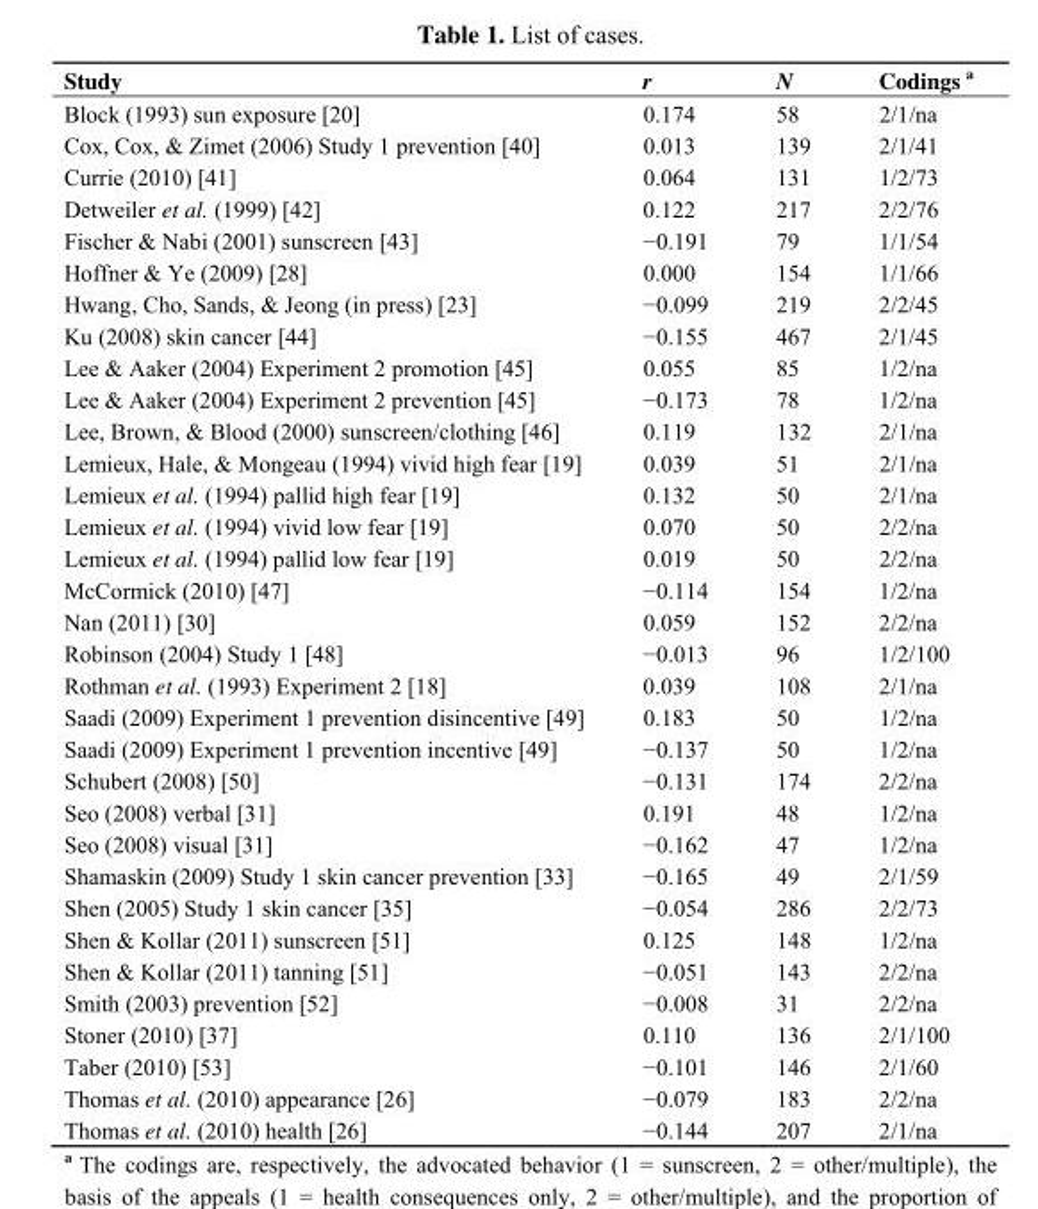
<table><thead><tr><td>Study</td><td>r</td><td>N</td><td>Codings <sup>a</sup></td></tr></thead><tbody><tr><td>Block (1993) sun exposure [20]</td><td>0.174</td><td>58</td><td>2/1/na</td></tr><tr><td>Cox, Cox, &amp; Zimet (2006) Study 1 prevention [40]</td><td>0.013</td><td>139</td><td>2/1/41</td></tr><tr><td>Currie (2010) [41]</td><td>0.064</td><td>131</td><td>1/2/73</td></tr><tr><td>Detweiler et al. (1999) [42]</td><td>0.122</td><td>217</td><td>2/2/76</td></tr><tr><td>Fischer &amp; Nabi (2001) sunscreen [43]</td><td>−0.191</td><td>79</td><td>1/1/54</td></tr><tr><td>Hoffner &amp; Ye (2009) [28]</td><td>0.000</td><td>154</td><td>1/1/66</td></tr><tr><td>Hwang, Cho, Sands, &amp; Jeong (in press) [23]</td><td>−0.099</td><td>219</td><td>2/2/45</td></tr><tr><td>Ku (2008) skin cancer [44]</td><td>−0.155</td><td>467</td><td>2/1/45</td></tr><tr><td>Lee &amp; Aaker (2004) Experiment 2 promotion [45]</td><td>0.055</td><td>85</td><td>1/2/na</td></tr><tr><td>Lee &amp; Aaker (2004) Experiment 2 prevention [45]</td><td>−0.173</td><td>78</td><td>1/2/na</td></tr><tr><td>Lee, Brown, &amp; Blood (2000) sunscreen/clothing [46]</td><td>0.119</td><td>132</td><td>2/1/na</td></tr><tr><td>Lemieux, Hale, &amp; Mongeau (1994) vivid high fear [19]</td><td>0.039</td><td>51</td><td>2/1/na</td></tr><tr><td>Lemieux et al. (1994) pallid high fear [19]</td><td>0.132</td><td>50</td><td>2/1/na</td></tr><tr><td>Lemieux et al. (1994) vivid low fear [19]</td><td>0.070</td><td>50</td><td>2/2/na</td></tr><tr><td>Lemieux et al. (1994) pallid low fear [19]</td><td>0.019</td><td>50</td><td>2/2/na</td></tr><tr><td>McCormick (2010) [47]</td><td>−0.114</td><td>154</td><td>1/2/na</td></tr><tr><td>Nan (2011) [30]</td><td>0.059</td><td>152</td><td>2/2/na</td></tr><tr><td>Robinson (2004) Study 1 [48]</td><td>−0.013</td><td>96</td><td>1/2/100</td></tr><tr><td>Rothman et al. (1993) Experiment 2 [18]</td><td>0.039</td><td>108</td><td>2/1/na</td></tr><tr><td>Saadi (2009) Experiment 1 prevention disincentive [49]</td><td>0.183</td><td>50</td><td>1/2/na</td></tr><tr><td>Saadi (2009) Experiment 1 prevention incentive [49]</td><td>−0.137</td><td>50</td><td>1/2/na</td></tr><tr><td>Schubert (2008) [50]</td><td>−0.131</td><td>174</td><td>2/2/na</td></tr><tr><td>Seo (2008) verbal [31]</td><td>0.191</td><td>48</td><td>1/2/na</td></tr><tr><td>Seo (2008) visual [31]</td><td>−0.162</td><td>47</td><td>1/2/na</td></tr><tr><td>Shamaskin (2009) Study 1 skin cancer prevention [33]</td><td>−0.165</td><td>49</td><td>2/1/59</td></tr><tr><td>Shen (2005) Study 1 skin cancer [35]</td><td>−0.054</td><td>286</td><td>2/2/73</td></tr><tr><td>Shen &amp; Kollar (2011) sunscreen [51]</td><td>0.125</td><td>148</td><td>1/2/na</td></tr><tr><td>Shen &amp; Kollar (2011) tanning [51]</td><td>−0.051</td><td>143</td><td>2/2/na</td></tr><tr><td>Smith (2003) prevention [52]</td><td>−0.008</td><td>31</td><td>2/2/na</td></tr><tr><td>Stoner (2010) [37]</td><td>0.110</td><td>136</td><td>2/1/100</td></tr><tr><td>Taber (2010) [53]</td><td>−0.101</td><td>146</td><td>2/1/60</td></tr><tr><td>Thomas et al. (2010) appearance [26]</td><td>−0.079</td><td>183</td><td>2/2/na</td></tr><tr><td>Thomas et al. (2010) health [26]</td><td>−0.144</td><td>207</td><td>2/1/na</td></tr></tbody></table>